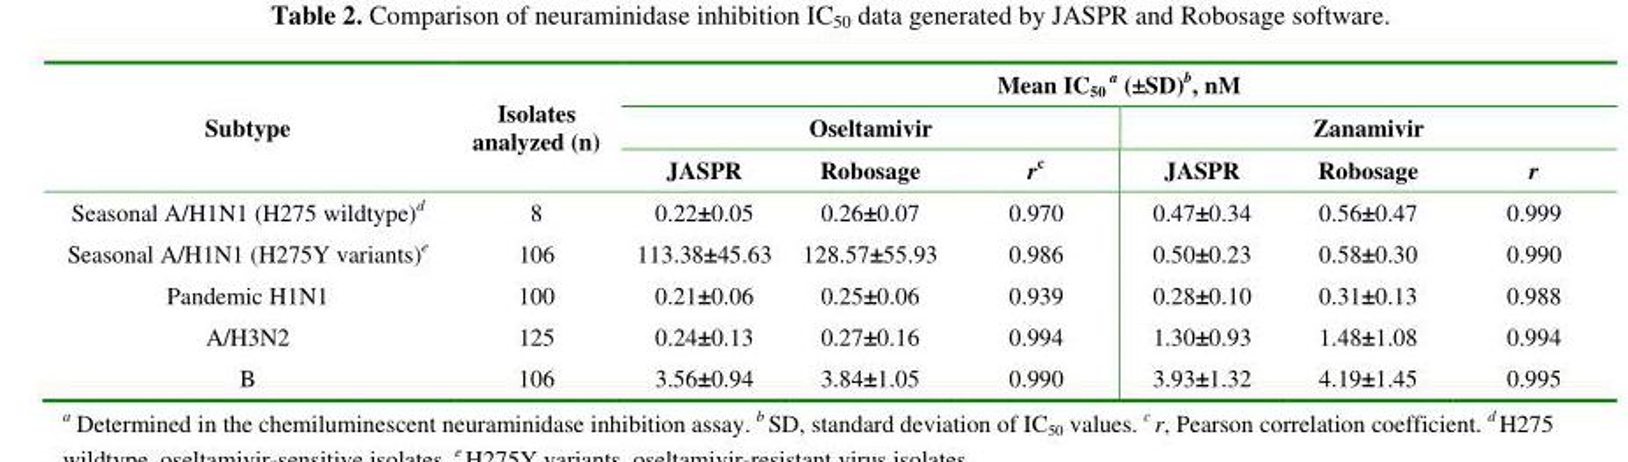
<table><thead><tr><td rowspan="3">Subtype</td><td rowspan="3">Isolates analyzed (n)</td><td colspan="6">Mean IC<sub>50</sub> <sup>a</sup> (±SD)<sup>b</sup>, nM</td></tr><tr><td colspan="3">Oseltamivir</td><td colspan="3">Zanamivir</td></tr><tr><td>JASPR</td><td>Robosage</td><td>r<sup>c</sup></td><td>JASPR</td><td>Robosage</td><td>r</td></tr></thead><tbody><tr><td>Seasonal A/H1N1 (H275 wildtype)<sup>d</sup></td><td>8</td><td>0.22±0.05</td><td>0.26±0.07</td><td>0.970</td><td>0.47±0.34</td><td>0.56±0.47</td><td>0.999</td></tr><tr><td>Seasonal A/H1N1 (H275Y variants)<sup>e</sup></td><td>106</td><td>113.38±45.63</td><td>128.57±55.93</td><td>0.986</td><td>0.50±0.23</td><td>0.58±0.30</td><td>0.990</td></tr><tr><td>Pandemic H1N1</td><td>100</td><td>0.21±0.06</td><td>0.25±0.06</td><td>0.939</td><td>0.28±0.10</td><td>0.31±0.13</td><td>0.988</td></tr><tr><td>A/H3N2</td><td>125</td><td>0.24±0.13</td><td>0.27±0.16</td><td>0.994</td><td>1.30±0.93</td><td>1.48±1.08</td><td>0.994</td></tr><tr><td>B</td><td>106</td><td>3.56±0.94</td><td>3.84±1.05</td><td>0.990</td><td>3.93±1.32</td><td>4.19±1.45</td><td>0.995</td></tr></tbody></table>